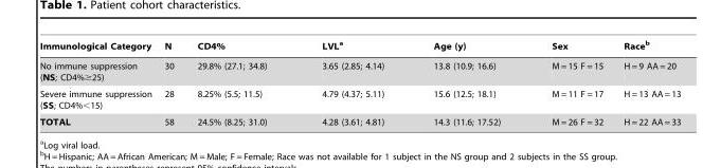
<table><thead><tr><td>Immunological Category</td><td>N</td><td>CD4%</td><td>LVL<sup>a</sup></td><td>Age (y)</td><td>Sex</td><td>Race<sup>b</sup></td></tr></thead><tbody><tr><td>No immune suppression (NS; CD4%≥25)</td><td>30</td><td>29.8% (27.1; 34.8)</td><td>3.65 (2.85; 4.14)</td><td>13.8 (10.9; 16.6)</td><td>M = 15 F = 15</td><td>H = 9 AA = 20</td></tr><tr><td>Severe immune suppression (SS; CD4%&lt;15)</td><td>28</td><td>8.25% (5.5; 11.5)</td><td>4.79 (4.37; 5.11)</td><td>15.6 (12.5; 18.1)</td><td>M = 11 F = 17</td><td>H = 13 AA = 13</td></tr><tr><td>TOTAL</td><td>58</td><td>24.5% (8.25; 31.0)</td><td>4.28 (3.61; 4.81)</td><td>14.3 (11.6; 17.52)</td><td>M = 26 F = 32</td><td>H = 22 AA = 33</td></tr></tbody></table>